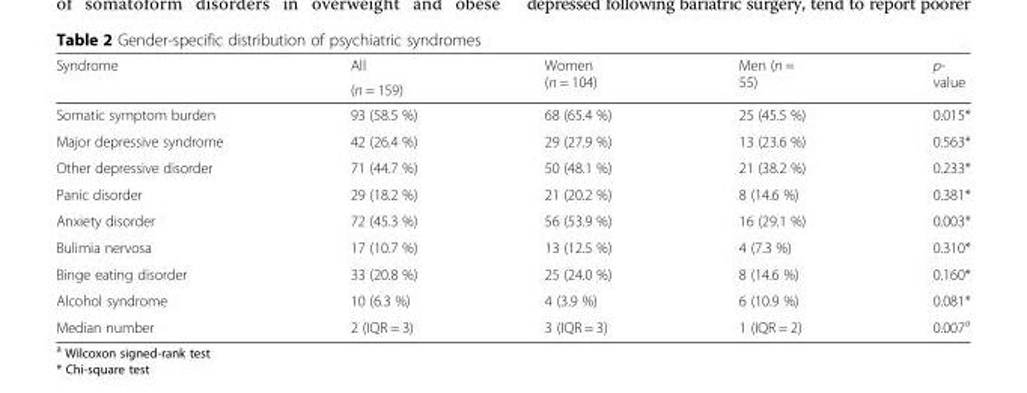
<table><thead><tr><td rowspan="2">Syndrome</td><td rowspan="2">All (n = 159)</td><td rowspan="2">Women (n = 104)</td><td rowspan="2">Men (n = 55)</td><td rowspan="2">p- value</td></tr><tr></tr></thead><tbody><tr><td>Somatic symptom burden</td><td>93 (58.5 %)</td><td>68 (65.4 %)</td><td>25 (45.5 %)</td><td>0.015*</td></tr><tr><td>Major depressive syndrome</td><td>42 (26.4 %)</td><td>29 (27.9 %)</td><td>13 (23.6 %)</td><td>0.563*</td></tr><tr><td>Other depressive disorder</td><td>71 (44.7 %)</td><td>50 (48.1 %)</td><td>21 (38.2 %)</td><td>0.233*</td></tr><tr><td>Panic disorder</td><td>29 (18.2 %)</td><td>21 (20.2 %)</td><td>8 (14.6 %)</td><td>0.381*</td></tr><tr><td>Anxiety disorder</td><td>72 (45.3 %)</td><td>56 (53.9 %)</td><td>16 (29.1 %)</td><td>0.003*</td></tr><tr><td>Bulimia nervosa</td><td>17 (10.7 %)</td><td>13 (12.5 %)</td><td>4 (7.3 %)</td><td>0.310*</td></tr><tr><td>Binge eating disorder</td><td>33 (20.8 %)</td><td>25 (24.0 %)</td><td>8 (14.6 %)</td><td>0.160*</td></tr><tr><td>Alcohol syndrome</td><td>10 (6.3 %)</td><td>4 (3.9 %)</td><td>6 (10.9 %)</td><td>0.081*</td></tr><tr><td>Median number</td><td>2 (IQR = 3)</td><td>3 (IQR = 3)</td><td>1 (IQR = 2)</td><td>0.007<sup>a</sup></td></tr></tbody></table>